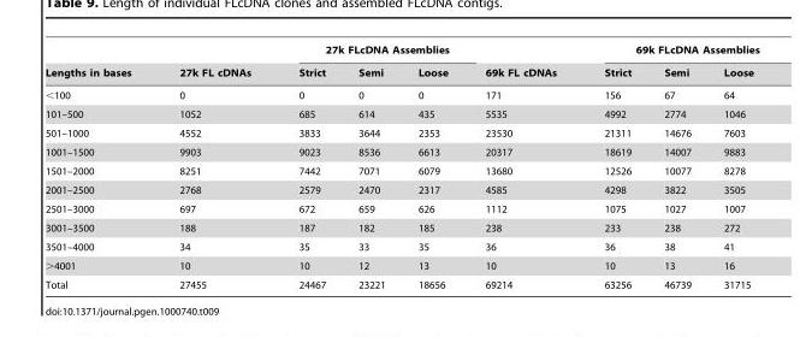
<table><thead><tr><td rowspan="2">Lengths in bases</td><td rowspan="2">27k FL cDNAs</td><td colspan="3">27k FLcDNA Assemblies</td><td rowspan="2">69k FL cDNAs</td><td colspan="3">69k FLcDNA Assemblies</td></tr><tr><td>Strict</td><td>Semi</td><td>Loose</td><td>Strict</td><td>Semi</td><td>Loose</td></tr></thead><tbody><tr><td>&lt;100</td><td>0</td><td>0</td><td>0</td><td>0</td><td>171</td><td>156</td><td>67</td><td>64</td></tr><tr><td>101–500</td><td>1052</td><td>685</td><td>614</td><td>435</td><td>5535</td><td>4992</td><td>2774</td><td>1046</td></tr><tr><td>501–1000</td><td>4552</td><td>3833</td><td>3644</td><td>2353</td><td>23530</td><td>21311</td><td>14676</td><td>7603</td></tr><tr><td>1001–1500</td><td>9903</td><td>9023</td><td>8536</td><td>6613</td><td>20317</td><td>18619</td><td>14007</td><td>9883</td></tr><tr><td>1501–2000</td><td>8251</td><td>7442</td><td>7071</td><td>6079</td><td>13680</td><td>12526</td><td>10077</td><td>8278</td></tr><tr><td>2001–2500</td><td>2768</td><td>2579</td><td>2470</td><td>2317</td><td>4585</td><td>4298</td><td>3822</td><td>3505</td></tr><tr><td>2501–3000</td><td>697</td><td>672</td><td>659</td><td>626</td><td>1112</td><td>1075</td><td>1027</td><td>1007</td></tr><tr><td>3001–3500</td><td>188</td><td>187</td><td>182</td><td>185</td><td>238</td><td>233</td><td>238</td><td>272</td></tr><tr><td>3501–4000</td><td>34</td><td>35</td><td>33</td><td>35</td><td>36</td><td>36</td><td>38</td><td>41</td></tr><tr><td>&gt;4001</td><td>10</td><td>10</td><td>12</td><td>13</td><td>10</td><td>10</td><td>13</td><td>16</td></tr><tr><td>Total</td><td>27455</td><td>24467</td><td>23221</td><td>18656</td><td>69214</td><td>63256</td><td>46739</td><td>31715</td></tr></tbody></table>